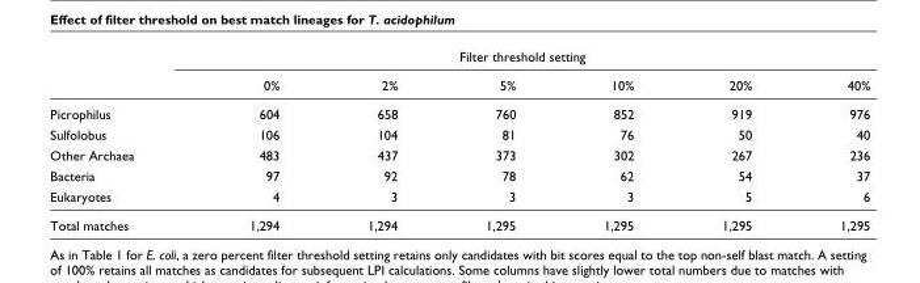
<table><thead><tr><td rowspan="2"></td><td colspan="6">Filter threshold setting</td></tr><tr><td>0%</td><td>2%</td><td>5%</td><td>10%</td><td>20%</td><td>40%</td></tr></thead><tbody><tr><td>Picrophilus</td><td>604</td><td>658</td><td>760</td><td>852</td><td>919</td><td>976</td></tr><tr><td>Sulfolobus</td><td>106</td><td>104</td><td>81</td><td>76</td><td>50</td><td>40</td></tr><tr><td>Other Archaea</td><td>483</td><td>437</td><td>373</td><td>302</td><td>267</td><td>236</td></tr><tr><td>Bacteria</td><td>97</td><td>92</td><td>78</td><td>62</td><td>54</td><td>37</td></tr><tr><td>Eukaryotes</td><td>4</td><td>3</td><td>3</td><td>3</td><td>5</td><td>6</td></tr><tr><td>Total matches</td><td>1,294</td><td>1,294</td><td>1,295</td><td>1,295</td><td>1,295</td><td>1,295</td></tr></tbody></table>